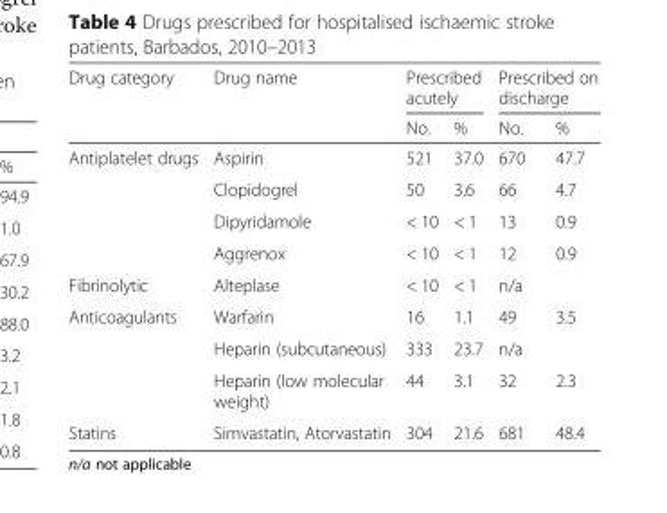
<table><thead><tr><td rowspan="2">Drug category</td><td rowspan="2">Drug name</td><td colspan="2">Prescribed acutely</td><td colspan="2">Prescribed on discharge</td></tr><tr><td>No.</td><td>%</td><td>No.</td><td>%</td></tr></thead><tbody><tr><td rowspan="4">Antiplatelet drugs</td><td>Aspirin</td><td>521</td><td>37.0</td><td>670</td><td>47.7</td></tr><tr><td>Clopidogrel</td><td>50</td><td>3.6</td><td>66</td><td>4.7</td></tr><tr><td>Dipyridamole</td><td>&lt; 10</td><td>&lt; 1</td><td>13</td><td>0.9</td></tr><tr><td>Aggrenox</td><td>&lt; 10</td><td>&lt; 1</td><td>12</td><td>0.9</td></tr><tr><td>Fibrinolytic</td><td>Alteplase</td><td>&lt; 10</td><td>&lt; 1</td><td>n/a</td><td></td></tr><tr><td rowspan="3">Anticoagulants</td><td>Warfarin</td><td>16</td><td>1.1</td><td>49</td><td>3.5</td></tr><tr><td>Heparin (subcutaneous)</td><td>333</td><td>23.7</td><td>n/a</td><td></td></tr><tr><td>Heparin (low molecular weight)</td><td>44</td><td>3.1</td><td>32</td><td>2.3</td></tr><tr><td>Statins</td><td>Simvastatin, Atorvastatin</td><td>304</td><td>21.6</td><td>681</td><td>48.4</td></tr></tbody></table>